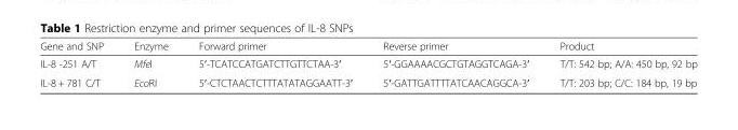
<table><thead><tr><td>Gene and SNP</td><td>Enzyme</td><td>Forward primer</td><td>Reverse primer</td><td>Product</td></tr></thead><tbody><tr><td>IL-8 -251 A/T</td><td>MfeI</td><td>5′-TCATCCATGATCTTGTTCTAA-3′</td><td>5′-GGAAAACGCTGTAGGTCAGA-3′</td><td>T/T: 542 bp; A/A: 450 bp, 92 bp</td></tr><tr><td>IL-8 + 781 C/T</td><td>EcoRI</td><td>5′-CTCTAACTCTTTATATAGGAATT-3′</td><td>5′-GATTGATTTTATCAACAGGCA-3′</td><td>T/T: 203 bp; C/C: 184 bp, 19 bp</td></tr></tbody></table>